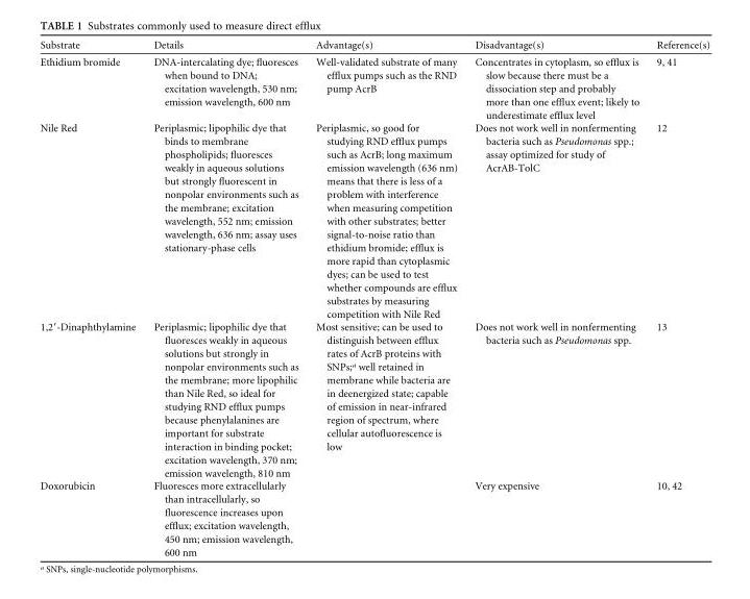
<table><thead><tr><td>Substrate</td><td>Details</td><td>Advantage(s)</td><td>Disadvantage(s)</td><td>Reference(s)</td></tr></thead><tbody><tr><td>Ethidium bromide</td><td>DNA-intercalating dye; fluoresces when bound to DNA; excitation wavelength, 530 nm; emission wavelength, 600 nm</td><td>Well-validated substrate of many efflux pumps such as the RND pump AcrB</td><td>Concentrates in cytoplasm, so efflux is slow because there must be a dissociation step and probably more than one efflux event; likely to underestimate efflux level</td><td>9, 41</td></tr><tr><td>Nile Red</td><td>Periplasmic; lipophilic dye that binds to membrane phospholipids; fluoresces weakly in aqueous solutions but strongly fluorescent in nonpolar environments such as the membrane; excitation wavelength, 552 nm; emission wavelength, 636 nm; assay uses stationary-phase cells</td><td>Periplasmic, so good for studying RND efflux pumps such as AcrB; long maximum emission wavelength (636 nm) means that there is less of a problem with interference when measuring competition with other substrates; better signal-to-noise ratio than ethidium bromide; efflux is more rapid than cytoplasmic dyes; can be used to test whether compounds are efflux substrates by measuring competition with Nile Red</td><td>Does not work well in nonfermenting bacteria such as Pseudomonas spp.; assay optimized for study of AcrAB-TolC</td><td>12</td></tr><tr><td>1,2=-Dinaphthylamine</td><td>Periplasmic; lipophilic dye that fluoresces weakly in aqueous solutions but strongly in nonpolar environments such as the membrane; more lipophilic than Nile Red, so ideal for studying RND efflux pumps because phenylalanines are important for substrate interaction in binding pocket; excitation wavelength, 370 nm; emission wavelength, 810 nm</td><td>Most sensitive; can be used to distinguish between efflux rates of AcrB proteins with SNPs;<sup>a</sup> well retained in membrane while bacteria are in deenergized state; capable of emission in near-infrared region of spectrum, where cellular autofluorescence is low</td><td>Does not work well in nonfermenting bacteria such as Pseudomonas spp.</td><td>13</td></tr><tr><td>Doxorubicin</td><td>Fluoresces more extracellularly than intracellularly, so fluorescence increases upon efflux; excitation wavelength, 450 nm; emission wavelength, 600 nm</td><td></td><td>Very expensive</td><td>10, 42</td></tr></tbody></table>